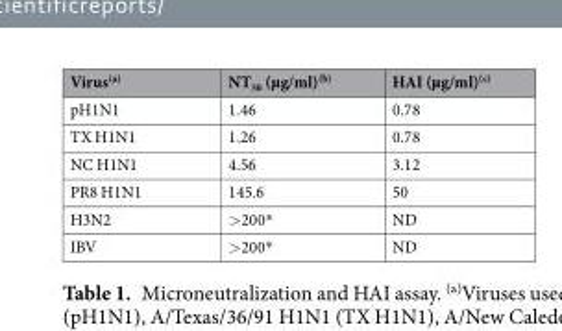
<table><thead><tr><td>Virus<sup>(a)</sup></td><td>NT<sub>50</sub> (µg/ml)<sup>(b)</sup></td><td>HAI (µg/ml)<sup>(c)</sup></td></tr></thead><tbody><tr><td>pH1N1</td><td>1.46</td><td>0.78</td></tr><tr><td>TX H1N1</td><td>1.26</td><td>0.78</td></tr><tr><td>NC H1N1</td><td>4.56</td><td>3.12</td></tr><tr><td>PR8 H1N1</td><td>145.6</td><td>50</td></tr><tr><td>H3N2</td><td>&gt;200*</td><td>ND</td></tr><tr><td>IBV</td><td>&gt;200*</td><td>ND</td></tr></tbody></table>